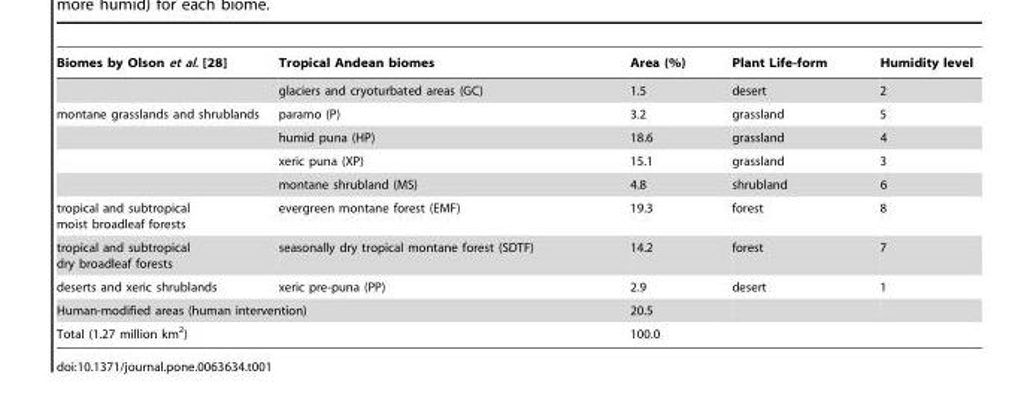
<table><thead><tr><td>Biomes by Olson et al. [28]</td><td>Tropical Andean biomes</td><td>Area (%)</td><td>Plant Life-form</td><td>Humidity level</td></tr></thead><tbody><tr><td></td><td>glaciers and cryoturbated areas (GC)</td><td>1.5</td><td>desert</td><td>2</td></tr><tr><td rowspan="4">montane grasslands and shrublands</td><td>paramo (P)</td><td>3.2</td><td>grassland</td><td>5</td></tr><tr><td>humid puna (HP)</td><td>18.6</td><td>grassland</td><td>4</td></tr><tr><td>xeric puna (XP)</td><td>15.1</td><td>grassland</td><td>3</td></tr><tr><td>montane shrubland (MS)</td><td>4.8</td><td>shrubland</td><td>6</td></tr><tr><td>tropical and subtropical moist broadleaf forests</td><td>evergreen montane forest (EMF)</td><td>19.3</td><td>forest</td><td>8</td></tr><tr><td>tropical and subtropical dry broadleaf forests</td><td>seasonally dry tropical montane forest (SDTF)</td><td>14.2</td><td>forest</td><td>7</td></tr><tr><td>deserts and xeric shrublands</td><td>xeric pre-puna (PP)</td><td>2.9</td><td>desert</td><td>1</td></tr><tr><td colspan="2">Human-modified areas (human intervention)</td><td>20.5</td><td></td><td></td></tr><tr><td colspan="2">Total (1.27 million km<sup>2</sup>)</td><td>100.0</td><td></td><td></td></tr></tbody></table>